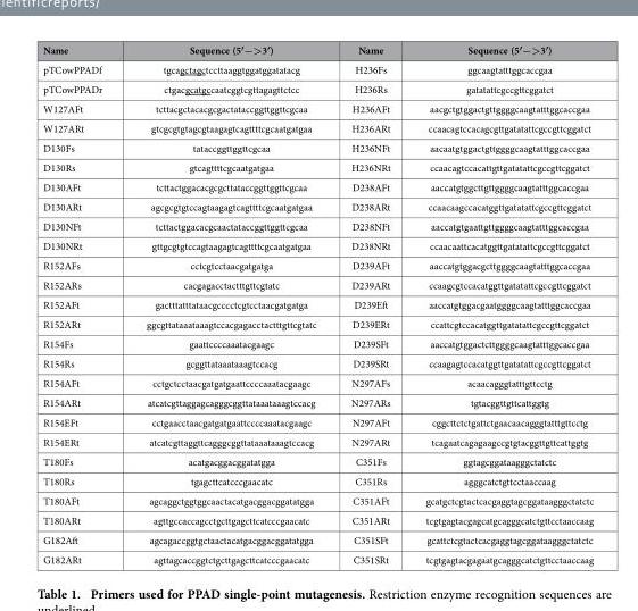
<table><thead><tr><td>Name</td><td>Sequence (5′−&gt;3′)</td><td>Name</td><td>Sequence (5′−&gt;3′)</td></tr></thead><tbody><tr><td>pTCowPPADf</td><td>tgcagctagctccttaaggtggatggatatacg</td><td>H236Fs</td><td>ggcaagtatttggcaccgaa</td></tr><tr><td>pTCowPPADr</td><td>ctgacgcatgccaatcggtcgttagagttctcc</td><td>H236Rs</td><td>gatatattcgccgttcggatct</td></tr><tr><td>W127AFt</td><td>tcttacgctacacgcgactataccggttggttcgcaa</td><td>H236AFt</td><td>aacgctgtggactgttggggcaagtatttggcaccgaa</td></tr><tr><td>W127ARt</td><td>gtcgcgtgtagcgtaagagtcagttttcgcaatgatgaa</td><td>H236ARt</td><td>ccaacagtccacagcgttgatatattcgccgttcggatct</td></tr><tr><td>D130Fs</td><td>tataccggttggttcgcaa</td><td>H236NFt</td><td>aacaatgtggactgttggggcaagtatttggcaccgaa</td></tr><tr><td>D130Rs</td><td>gtcagttttcgcaatgatgaa</td><td>H236NRt</td><td>ccaacagtccacattgttgatatattcgccgttcggatct</td></tr><tr><td>D130AFt</td><td>tcttactggacacgcgcttataccggttggttcgcaa</td><td>D238AFt</td><td>aaccatgtggcttgttggggcaagtatttggcaccgaa</td></tr><tr><td>D130ARt</td><td>agcgcgtgtccagtaagagtcagttttcgcaatgatgaa</td><td>D238ARt</td><td>ccaacaagccacatggttgatatattcgccgttcggatct</td></tr><tr><td>D130NFt</td><td>tcttactggacacgcaactataccggttggttcgcaa</td><td>D238NFt</td><td>aaccatgtgaattgttggggcaagtatttggcaccgaa</td></tr><tr><td>D130NRt</td><td>gttgcgtgtccagtaagagtcagttttcgcaatgatgaa</td><td>D238NRt</td><td>ccaacaattcacatggttgatatattcgccgttcggatct</td></tr><tr><td>R152AFs</td><td>cctcgtcctaacgatgatga</td><td>D239AFt</td><td>aaccatgtggacgcttggggcaagtatttggcaccgaa</td></tr><tr><td>R152ARs</td><td>cacgagacctactttgttcgtatc</td><td>D239ARt</td><td>ccaagcgtccacatggttgatatattcgccgttcggatct</td></tr><tr><td>R152AFt</td><td>gactttatttataacgcccctcgtcctaacgatgatga</td><td>D239Eft</td><td>aaccatgtggacgaatggggcaagtatttggcaccgaa</td></tr><tr><td>R152ARt</td><td>ggcgttataaataaagtccacgagacctactttgttcgtatc</td><td>D239ERt</td><td>ccattcgtccacatggttgatatattcgccgttcggatct</td></tr><tr><td>R154Fs</td><td>gaattccccaaatacgaagc</td><td>D239SFt</td><td>aaccatgtggactcttggggcaagtatttggcaccgaa</td></tr><tr><td>R154Rs</td><td>gcggttataaataaagtccacg</td><td>D239SRt</td><td>ccaagagtccacatggttgatatattcgccgttcggatct</td></tr><tr><td>R154AFt</td><td>cctgctcctaacgatgatgaattccccaaatacgaagc</td><td>N297AFs</td><td>acaacagggtatttgttcctg</td></tr><tr><td>R154ARt</td><td>atcatcgttaggagcagggcggttataaataaagtccacg</td><td>N297ARs</td><td>tgtacggttgttcattggtg</td></tr><tr><td>R154EFt</td><td>cctgaacctaacgatgatgaattccccaaatacgaagc</td><td>N297AFt</td><td>cggcttctctgattctgaacaacagggtatttgttcctg</td></tr><tr><td>R154ERt</td><td>atcatcgttaggttcagggcggttataaataaagtccacg</td><td>N297ARt</td><td>tcagaatcagagaagccgtgtacggttgttcattggtg</td></tr><tr><td>T180Fs</td><td>acatgacggacggatatgga</td><td>C351Fs</td><td>ggtagcggataagggctatctc</td></tr><tr><td>T180Rs</td><td>tgagcttcatcccgaacatc</td><td>C351Rs</td><td>agggcatctgttcctaaccaag</td></tr><tr><td>T180AFt</td><td>agcaggctggtggcaactacatgacggacggatatgga</td><td>C351AFt</td><td>gcatgctcgtactcacgaggtagcggataagggctatctc</td></tr><tr><td>T180ARt</td><td>agttgccaccagcctgcttgagcttcatcccgaacatc</td><td>C351ARt</td><td>tcgtgagtacgagcatgcagggcatctgttcctaaccaag</td></tr><tr><td>G182Aft</td><td>agcagaccggtgctaactacatgacggacggatatgga</td><td>C351SFt</td><td>gcattctcgtactcacgaggtagcggataagggctatctc</td></tr><tr><td>G182ARt</td><td>agttagcaccggtctgcttgagcttcatcccgaacatc</td><td>C351SRt</td><td>tcgtgagtacgagaatgcagggcatctgttcctaaccaag</td></tr></tbody></table>